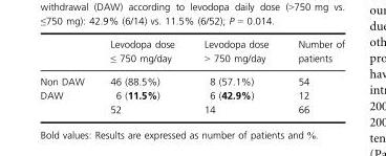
<table><thead><tr><td></td><td>Levodopa dose ≤ 750 mg/day</td><td>Levodopa dose &gt; 750 mg/day</td><td>Number of patients</td></tr></thead><tbody><tr><td>Non DAW</td><td>46 (88.5%)</td><td>8 (57.1%)</td><td>54</td></tr><tr><td rowspan="2">DAW</td><td>6 (11.5%)</td><td>6 (42.9%)</td><td>12</td></tr><tr><td>52</td><td>14</td><td>66</td></tr></tbody></table>